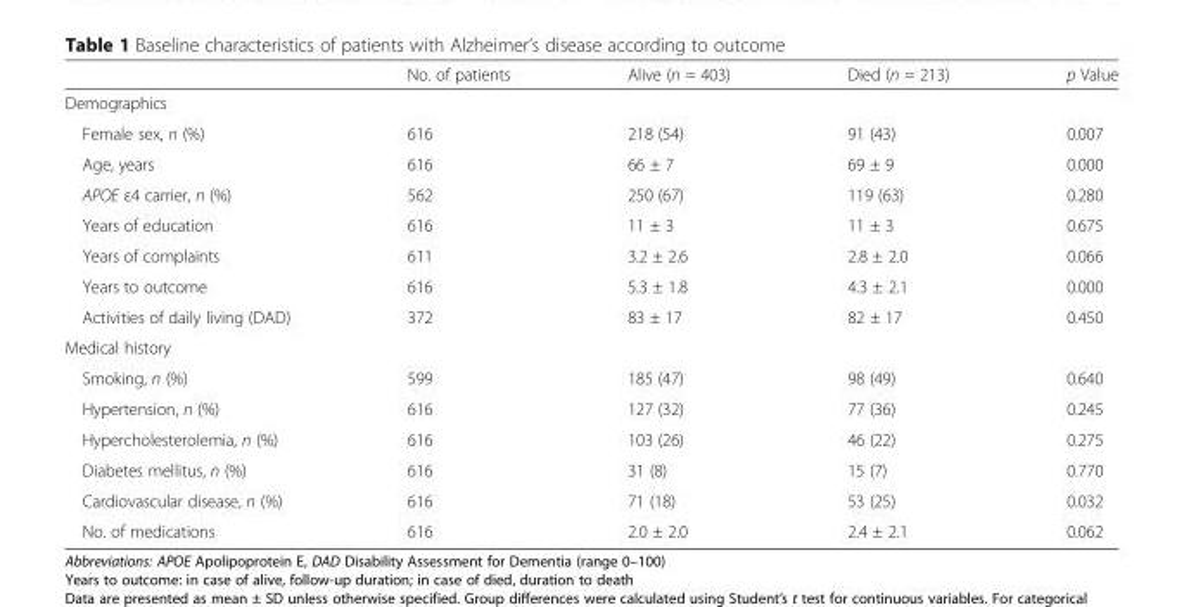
<table><thead><tr><td></td><td>No. of patients</td><td>Alive (n = 403)</td><td>Died (n = 213)</td><td>p Value</td></tr></thead><tbody><tr><td colspan="5">Demographics</td></tr><tr><td>Female sex, n (%)</td><td>616</td><td>218 (54)</td><td>91 (43)</td><td>0.007</td></tr><tr><td>Age, years</td><td>616</td><td>66 ± 7</td><td>69 ± 9</td><td>0.000</td></tr><tr><td>APOE ε4 carrier, n (%)</td><td>562</td><td>250 (67)</td><td>119 (63)</td><td>0.280</td></tr><tr><td>Years of education</td><td>616</td><td>11 ± 3</td><td>11 ± 3</td><td>0.675</td></tr><tr><td>Years of complaints</td><td>611</td><td>3.2 ± 2.6</td><td>2.8 ± 2.0</td><td>0.066</td></tr><tr><td>Years to outcome</td><td>616</td><td>5.3 ± 1.8</td><td>4.3 ± 2.1</td><td>0.000</td></tr><tr><td>Activities of daily living (DAD)</td><td>372</td><td>83 ± 17</td><td>82 ± 17</td><td>0.450</td></tr><tr><td colspan="5">Medical history</td></tr><tr><td>Smoking, n (%)</td><td>599</td><td>185 (47)</td><td>98 (49)</td><td>0.640</td></tr><tr><td>Hypertension, n (%)</td><td>616</td><td>127 (32)</td><td>77 (36)</td><td>0.245</td></tr><tr><td>Hypercholesterolemia, n (%)</td><td>616</td><td>103 (26)</td><td>46 (22)</td><td>0.275</td></tr><tr><td>Diabetes mellitus, n (%)</td><td>616</td><td>31 (8)</td><td>15 (7)</td><td>0.770</td></tr><tr><td>Cardiovascular disease, n (%)</td><td>616</td><td>71 (18)</td><td>53 (25)</td><td>0.032</td></tr><tr><td>No. of medications</td><td>616</td><td>2.0 ± 2.0</td><td>2.4 ± 2.1</td><td>0.062</td></tr></tbody></table>